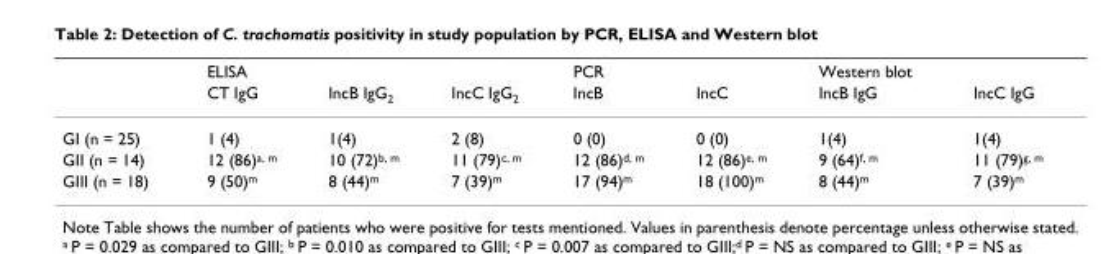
<table><thead><tr><td rowspan="2"></td><td rowspan="2">ELISA CT IgG</td><td rowspan="2">IncB IgG<sub>2</sub></td><td rowspan="2">IncC IgG<sub>2</sub></td><td rowspan="2">PCR IncB</td><td rowspan="2">IncC</td><td rowspan="2">Western blot IncB IgG</td><td rowspan="2">IncC IgG</td></tr><tr></tr></thead><tbody><tr><td>GI (n = 25)</td><td>1 (4)</td><td>1(4)</td><td>2 (8)</td><td>0 (0)</td><td>0 (0)</td><td>1(4)</td><td>1(4)</td></tr><tr><td>GII (n = 14)</td><td>12 (86)<sup>a, m</sup></td><td>10 (72)<sup>b, m</sup></td><td>11 (79)<sup>c, m</sup></td><td>12 (86)<sup>d, m</sup></td><td>12 (86)<sup>e, m</sup></td><td>9 (64)<sup>f, m</sup></td><td>11 (79)<sup>g, m</sup></td></tr><tr><td>GIII (n = 18)</td><td>9 (50)<sup>m</sup></td><td>8 (44)<sup>m</sup></td><td>7 (39)<sup>m</sup></td><td>17 (94)<sup>m</sup></td><td>18 (100)<sup>m</sup></td><td>8 (44)<sup>m</sup></td><td>7 (39)<sup>m</sup></td></tr></tbody></table>